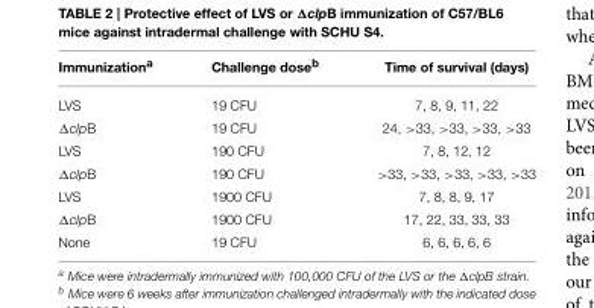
<table><thead><tr><td>Immunization<sup>a</sup></td><td>Challenge dose<sup>b</sup></td><td>Time of survival (days)</td></tr></thead><tbody><tr><td>LVS</td><td>19 CFU</td><td>7, 8, 9, 11, 22</td></tr><tr><td>ΔclpB</td><td>19 CFU</td><td>24, &gt;33, &gt;33, &gt;33, &gt;33</td></tr><tr><td>LVS</td><td>190 CFU</td><td>7, 8, 12, 12</td></tr><tr><td>ΔclpB</td><td>190 CFU</td><td>&gt;33, &gt;33, &gt;33, &gt;33, &gt;33</td></tr><tr><td>LVS</td><td>1900 CFU</td><td>7, 8, 8, 9, 17</td></tr><tr><td>ΔclpB</td><td>1900 CFU</td><td>17, 22, 33, 33, 33</td></tr><tr><td>None</td><td>19 CFU</td><td>6, 6, 6, 6, 6</td></tr></tbody></table>